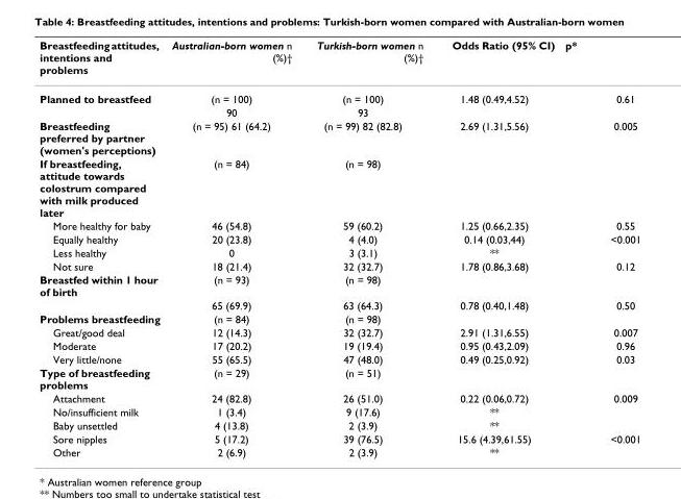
<table><thead><tr><td>Breastfeeding attitudes, intentions and problems</td><td>Australian-born women n (%)†</td><td>Turkish-born women n (%)†</td><td>Odds Ratio (95% CI)</td><td>p*</td></tr></thead><tbody><tr><td rowspan="2">Planned to breastfeed</td><td>(n = 100)</td><td>(n = 100)</td><td>1.48 (0.49,4.52)</td><td>0.61</td></tr><tr><td>90</td><td>93</td><td></td><td></td></tr><tr><td>Breastfeeding preferred by partner (women&#x27;s perceptions)</td><td>(n = 95) 61 (64.2)</td><td>(n = 99) 82 (82.8)</td><td>2.69 (1.31,5.56)</td><td>0.005</td></tr><tr><td>If breastfeeding, attitude towards colostrum compared with milk produced later</td><td>(n = 84)</td><td>(n = 98)</td><td></td><td></td></tr><tr><td>More healthy for baby</td><td>46 (54.8)</td><td>59 (60.2)</td><td>1.25 (0.66,2.35)</td><td>0.55</td></tr><tr><td>Equally healthy</td><td>20 (23.8)</td><td>4 (4.0)</td><td>0.14 (0.03,44)</td><td>&lt;0.001</td></tr><tr><td>Less healthy</td><td>0</td><td>3 (3.1)</td><td>**</td><td></td></tr><tr><td>Not sure</td><td>18 (21.4)</td><td>32 (32.7)</td><td>1.78 (0.86,3.68)</td><td>0.12</td></tr><tr><td rowspan="2">Breastfed within 1 hour of birth</td><td>(n = 93)</td><td>(n = 98)</td><td></td><td></td></tr><tr><td>65 (69.9)</td><td>63 (64.3)</td><td>0.78 (0.40,1.48)</td><td>0.50</td></tr><tr><td>Problems breastfeeding</td><td>(n = 84)</td><td>(n = 98)</td><td></td><td></td></tr><tr><td>Great/good deal</td><td>12 (14.3)</td><td>32 (32.7)</td><td>2.91 (1.31,6.55)</td><td>0.007</td></tr><tr><td>Moderate</td><td>17 (20.2)</td><td>19 (19.4)</td><td>0.95 (0.43,2.09)</td><td>0.96</td></tr><tr><td>Very little/none</td><td>55 (65.5)</td><td>47 (48.0)</td><td>0.49 (0.25,0.92)</td><td>0.03</td></tr><tr><td>Type of breastfeeding problems</td><td>(n = 29)</td><td>(n = 51)</td><td></td><td></td></tr><tr><td>Attachment</td><td>24 (82.8)</td><td>26 (51.0)</td><td>0.22 (0.06,0.72)</td><td>0.009</td></tr><tr><td>No/insufficient milk</td><td>1 (3.4)</td><td>9 (17.6)</td><td>**</td><td></td></tr><tr><td>Baby unsettled</td><td>4 (13.8)</td><td>2 (3.9)</td><td>**</td><td></td></tr><tr><td>Sore nipples</td><td>5 (17.2)</td><td>39 (76.5)</td><td>15.6 (4.39,61.55)</td><td>&lt;0.001</td></tr><tr><td>Other</td><td>2 (6.9)</td><td>2 (3.9)</td><td>**</td><td></td></tr></tbody></table>